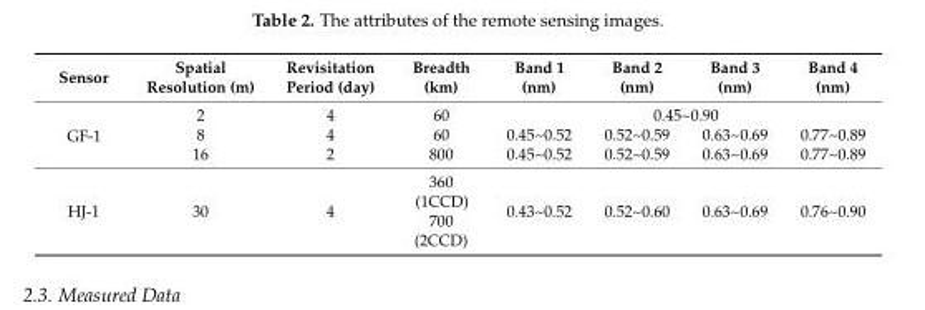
<table><thead><tr><td>Sensor</td><td>Spatial Resolution (m)</td><td>Revisitation Period (day)</td><td>Breadth (km)</td><td>Band 1 (nm)</td><td>Band 2 (nm)</td><td>Band 3 (nm)</td><td>Band 4 (nm)</td></tr></thead><tbody><tr><td rowspan="3">GF-1</td><td>2</td><td>4</td><td>60</td><td colspan="4">0.45~0.90</td></tr><tr><td>8</td><td>4</td><td>60</td><td>0.45~0.52</td><td>0.52~0.59</td><td>0.63~0.69</td><td>0.77~0.89</td></tr><tr><td>16</td><td>2</td><td>800</td><td>0.45~0.52</td><td>0.52~0.59</td><td>0.63~0.69</td><td>0.77~0.89</td></tr><tr><td>HJ-1</td><td>30</td><td>4</td><td>360 (1CCD) 700 (2CCD)</td><td>0.43~0.52</td><td>0.52~0.60</td><td>0.63~0.69</td><td>0.76~0.90</td></tr></tbody></table>